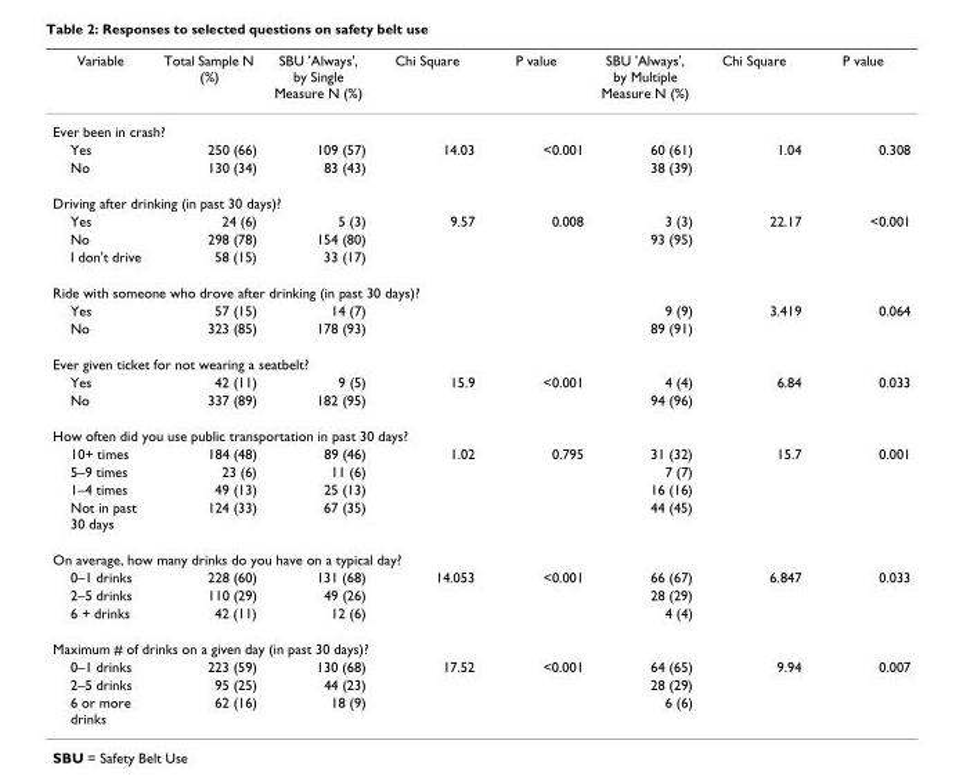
<table><thead><tr><td>Variable</td><td>Total Sample N (%)</td><td>SBU &#x27;Always&#x27;, by Single Measure N (%)</td><td>Chi Square</td><td>P value</td><td>SBU &#x27;Always&#x27;, by Multiple Measure N (%)</td><td>Chi Square</td><td>P value</td></tr></thead><tbody><tr><td colspan="8">Ever been in crash?</td></tr><tr><td>Yes</td><td>250 (66)</td><td>109 (57)</td><td>14.03</td><td>&lt;0.001</td><td>60 (61)</td><td>1.04</td><td>0.308</td></tr><tr><td>No</td><td>130 (34)</td><td>83 (43)</td><td></td><td></td><td>38 (39)</td><td></td><td></td></tr><tr><td colspan="8">Driving after drinking (in past 30 days)?</td></tr><tr><td>Yes</td><td>24 (6)</td><td>5 (3)</td><td>9.57</td><td>0.008</td><td>3 (3)</td><td>22.17</td><td>&lt;0.001</td></tr><tr><td>No</td><td>298 (78)</td><td>154 (80)</td><td></td><td></td><td>93 (95)</td><td></td><td></td></tr><tr><td>I don&#x27;t drive</td><td>58 (15)</td><td>33 (17)</td><td></td><td></td><td></td><td></td><td></td></tr><tr><td colspan="8">Ride with someone who drove after drinking (in past 30 days)?</td></tr><tr><td>Yes</td><td>57 (15)</td><td>14 (7)</td><td></td><td></td><td>9 (9)</td><td>3.419</td><td>0.064</td></tr><tr><td>No</td><td>323 (85)</td><td>178 (93)</td><td></td><td></td><td>89 (91)</td><td></td><td></td></tr><tr><td colspan="8">Ever given ticket for not wearing a seatbelt?</td></tr><tr><td>Yes</td><td>42 (11)</td><td>9 (5)</td><td>15.9</td><td>&lt;0.001</td><td>4 (4)</td><td>6.84</td><td>0.033</td></tr><tr><td>No</td><td>337 (89)</td><td>182 (95)</td><td></td><td></td><td>94 (96)</td><td></td><td></td></tr><tr><td colspan="8">How often did you use public transportation in past 30 days?</td></tr><tr><td>10+ times</td><td>184 (48)</td><td>89 (46)</td><td>1.02</td><td>0.795</td><td>31 (32)</td><td>15.7</td><td>0.001</td></tr><tr><td>5–9 times</td><td>23 (6)</td><td>11 (6)</td><td></td><td></td><td>7 (7)</td><td></td><td></td></tr><tr><td>1–4 times</td><td>49 (13)</td><td>25 (13)</td><td></td><td></td><td>16 (16)</td><td></td><td></td></tr><tr><td>Not in past 30 days</td><td>124 (33)</td><td>67 (35)</td><td></td><td></td><td>44 (45)</td><td></td><td></td></tr><tr><td colspan="8">On average, how many drinks do you have on a typical day?</td></tr><tr><td>0–1 drinks</td><td>228 (60)</td><td>131 (68)</td><td>14.053</td><td>&lt;0.001</td><td>66 (67)</td><td>6.847</td><td>0.033</td></tr><tr><td>2–5 drinks</td><td>110 (29)</td><td>49 (26)</td><td></td><td></td><td>28 (29)</td><td></td><td></td></tr><tr><td>6 + drinks</td><td>42 (11)</td><td>12 (6)</td><td></td><td></td><td>4 (4)</td><td></td><td></td></tr><tr><td colspan="8">Maximum # of drinks on a given day (in past 30 days)?</td></tr><tr><td>0–1 drinks</td><td>223 (59)</td><td>130 (68)</td><td>17.52</td><td>&lt;0.001</td><td>64 (65)</td><td>9.94</td><td>0.007</td></tr><tr><td>2–5 drinks</td><td>95 (25)</td><td>44 (23)</td><td></td><td></td><td>28 (29)</td><td></td><td></td></tr><tr><td>6 or more drinks</td><td>62 (16)</td><td>18 (9)</td><td></td><td></td><td>6 (6)</td><td></td><td></td></tr></tbody></table>